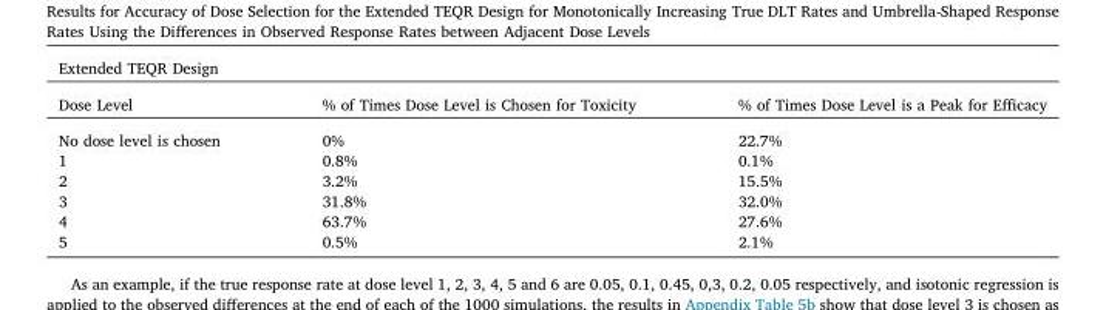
<table><thead><tr><td colspan="3">Extended TEQR Design</td></tr><tr><td>Dose Level</td><td>% of Times Dose Level is Chosen for Toxicity</td><td>% of Times Dose Level is a Peak for Efficacy</td></tr></thead><tbody><tr><td>No dose level is chosen</td><td>0%</td><td>22.7%</td></tr><tr><td>1</td><td>0.8%</td><td>0.1%</td></tr><tr><td>2</td><td>3.2%</td><td>15.5%</td></tr><tr><td>3</td><td>31.8%</td><td>32.0%</td></tr><tr><td>4</td><td>63.7%</td><td>27.6%</td></tr><tr><td>5</td><td>0.5%</td><td>2.1%</td></tr></tbody></table>